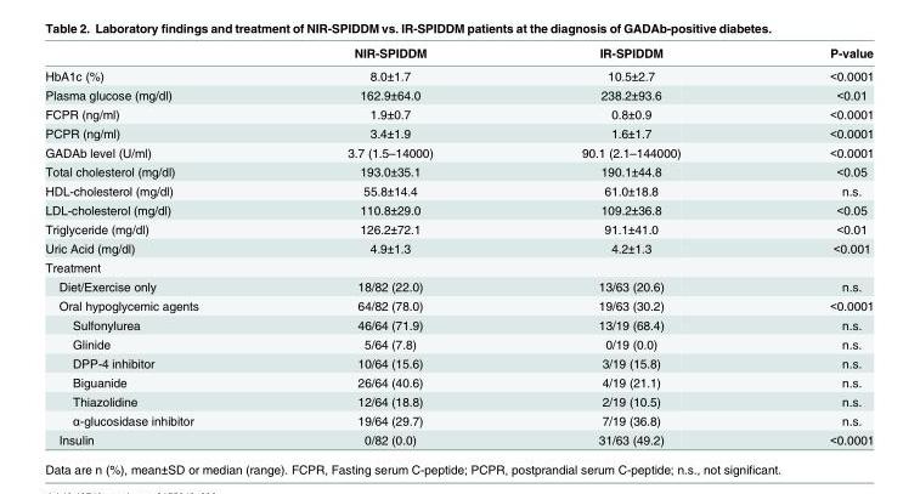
<table><thead><tr><td></td><td>NIR-SPIDDM</td><td>IR-SPIDDM</td><td>P-value</td></tr></thead><tbody><tr><td>HbA1c (%)</td><td>8.0±1.7</td><td>10.5±2.7</td><td>&lt;0.0001</td></tr><tr><td>Plasma glucose (mg/dl)</td><td>162.9±64.0</td><td>238.2±93.6</td><td>&lt;0.01</td></tr><tr><td>FCPR (ng/ml)</td><td>1.9±0.7</td><td>0.8±0.9</td><td>&lt;0.0001</td></tr><tr><td>PCPR (ng/ml)</td><td>3.4±1.9</td><td>1.6±1.7</td><td>&lt;0.0001</td></tr><tr><td>GADAb level (U/ml)</td><td>3.7 (1.5–14000)</td><td>90.1 (2.1–144000)</td><td>&lt;0.0001</td></tr><tr><td>Total cholesterol (mg/dl)</td><td>193.0±35.1</td><td>190.1±44.8</td><td>&lt;0.05</td></tr><tr><td>HDL-cholesterol (mg/dl)</td><td>55.8±14.4</td><td>61.0±18.8</td><td>n.s.</td></tr><tr><td>LDL-cholesterol (mg/dl)</td><td>110.8±29.0</td><td>109.2±36.8</td><td>&lt;0.05</td></tr><tr><td>Triglyceride (mg/dl)</td><td>126.2±72.1</td><td>91.1±41.0</td><td>&lt;0.01</td></tr><tr><td>Uric Acid (mg/dl)</td><td>4.9±1.3</td><td>4.2±1.3</td><td>&lt;0.001</td></tr><tr><td colspan="4">Treatment</td></tr><tr><td>Diet/Exercise only</td><td>18/82 (22.0)</td><td>13/63 (20.6)</td><td>n.s.</td></tr><tr><td>Oral hypoglycemic agents</td><td>64/82 (78.0)</td><td>19/63 (30.2)</td><td>&lt;0.0001</td></tr><tr><td>Sulfonylurea</td><td>46/64 (71.9)</td><td>13/19 (68.4)</td><td>n.s.</td></tr><tr><td>Glinide</td><td>5/64 (7.8)</td><td>0/19 (0.0)</td><td>n.s.</td></tr><tr><td>DPP-4 inhibitor</td><td>10/64 (15.6)</td><td>3/19 (15.8)</td><td>n.s.</td></tr><tr><td>Biguanide</td><td>26/64 (40.6)</td><td>4/19 (21.1)</td><td>n.s.</td></tr><tr><td>Thiazolidine</td><td>12/64 (18.8)</td><td>2/19 (10.5)</td><td>n.s.</td></tr><tr><td>α-glucosidase inhibitor</td><td>19/64 (29.7)</td><td>7/19 (36.8)</td><td>n.s.</td></tr><tr><td>Insulin</td><td>0/82 (0.0)</td><td>31/63 (49.2)</td><td>&lt;0.0001</td></tr></tbody></table>